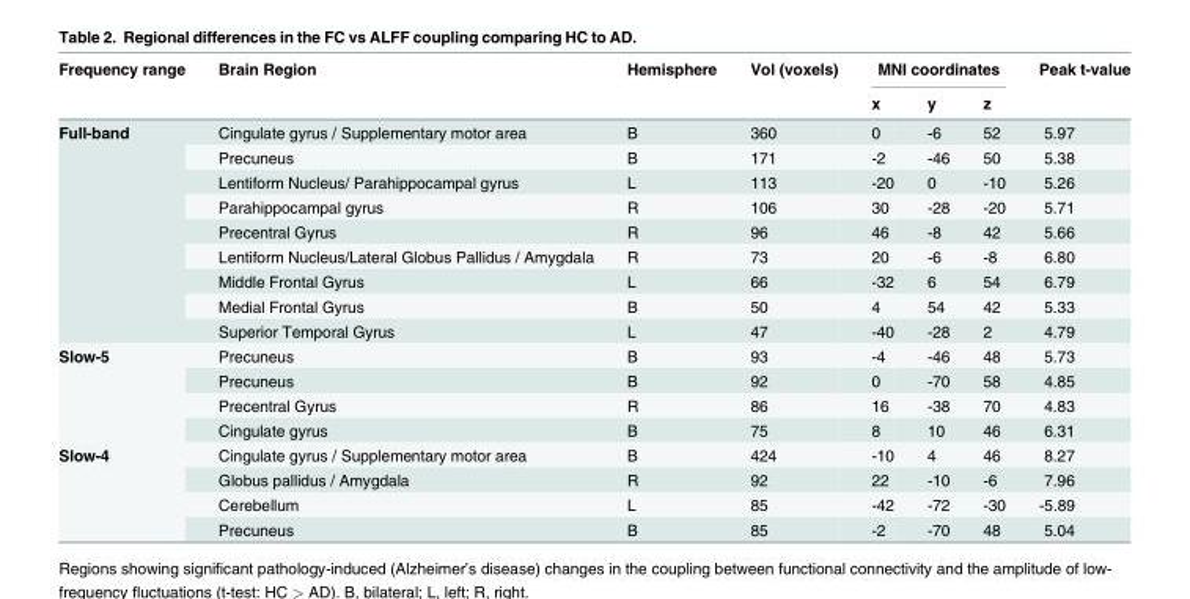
<table><thead><tr><td rowspan="2">Frequency range</td><td rowspan="2">Brain Region</td><td rowspan="2">Hemisphere</td><td rowspan="2">Vol (voxels)</td><td colspan="3">MNI coordinates</td><td rowspan="2">Peak t-value</td></tr><tr><td>x</td><td>y</td><td>z</td></tr></thead><tbody><tr><td rowspan="9">Full-band</td><td>Cingulate gyrus / Supplementary motor area</td><td>B</td><td>360</td><td>0</td><td>-6</td><td>52</td><td>5.97</td></tr><tr><td>Precuneus</td><td>B</td><td>171</td><td>-2</td><td>-46</td><td>50</td><td>5.38</td></tr><tr><td>Lentiform Nucleus/ Parahippocampal gyrus</td><td>L</td><td>113</td><td>-20</td><td>0</td><td>-10</td><td>5.26</td></tr><tr><td>Parahippocampal gyrus</td><td>R</td><td>106</td><td>30</td><td>-28</td><td>-20</td><td>5.71</td></tr><tr><td>Precentral Gyrus</td><td>R</td><td>96</td><td>46</td><td>-8</td><td>42</td><td>5.66</td></tr><tr><td>Lentiform Nucleus/Lateral Globus Pallidus / Amygdala</td><td>R</td><td>73</td><td>20</td><td>-6</td><td>-8</td><td>6.80</td></tr><tr><td>Middle Frontal Gyrus</td><td>L</td><td>66</td><td>-32</td><td>6</td><td>54</td><td>6.79</td></tr><tr><td>Medial Frontal Gyrus</td><td>B</td><td>50</td><td>4</td><td>54</td><td>42</td><td>5.33</td></tr><tr><td>Superior Temporal Gyrus</td><td>L</td><td>47</td><td>-40</td><td>-28</td><td>2</td><td>4.79</td></tr><tr><td rowspan="4">Slow-5</td><td>Precuneus</td><td>B</td><td>93</td><td>-4</td><td>-46</td><td>48</td><td>5.73</td></tr><tr><td>Precuneus</td><td>B</td><td>92</td><td>0</td><td>-70</td><td>58</td><td>4.85</td></tr><tr><td>Precentral Gyrus</td><td>R</td><td>86</td><td>16</td><td>-38</td><td>70</td><td>4.83</td></tr><tr><td>Cingulate gyrus</td><td>B</td><td>75</td><td>8</td><td>10</td><td>46</td><td>6.31</td></tr><tr><td rowspan="4">Slow-4</td><td>Cingulate gyrus / Supplementary motor area</td><td>B</td><td>424</td><td>-10</td><td>4</td><td>46</td><td>8.27</td></tr><tr><td>Globus pallidus / Amygdala</td><td>R</td><td>92</td><td>22</td><td>-10</td><td>-6</td><td>7.96</td></tr><tr><td>Cerebellum</td><td>L</td><td>85</td><td>-42</td><td>-72</td><td>-30</td><td>-5.89</td></tr><tr><td>Precuneus</td><td>B</td><td>85</td><td>-2</td><td>-70</td><td>48</td><td>5.04</td></tr></tbody></table>